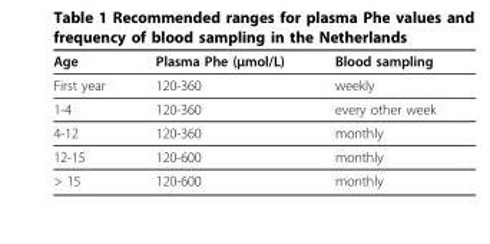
<table><thead><tr><td>Age</td><td>Plasma Phe (μmol/L)</td><td>Blood sampling</td></tr></thead><tbody><tr><td>First year</td><td>120-360</td><td>weekly</td></tr><tr><td>1-4</td><td>120-360</td><td>every other week</td></tr><tr><td>4-12</td><td>120-360</td><td>monthly</td></tr><tr><td>12-15</td><td>120-600</td><td>monthly</td></tr><tr><td>&gt; 15</td><td>120-600</td><td>monthly</td></tr></tbody></table>